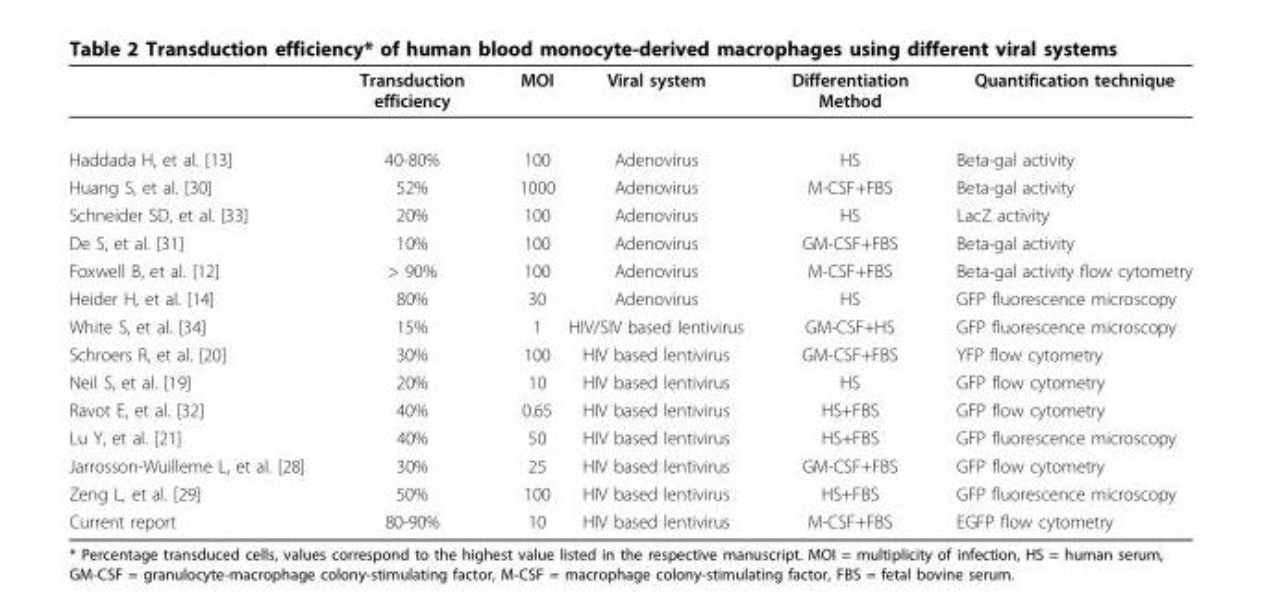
<table><thead><tr><td></td><td>Transduction efficiency</td><td>MOI</td><td>Viral system</td><td>Differentiation Method</td><td>Quantification technique</td></tr></thead><tbody><tr><td>Haddada H, et al. [13]</td><td>40-80%</td><td>100</td><td>Adenovirus</td><td>HS</td><td>Beta-gal activity</td></tr><tr><td>Huang S, et al. [30]</td><td>52%</td><td>1000</td><td>Adenovirus</td><td>M-CSF+FBS</td><td>Beta-gal activity</td></tr><tr><td>Schneider SD, et al. [33]</td><td>20%</td><td>100</td><td>Adenovirus</td><td>HS</td><td>LacZ activity</td></tr><tr><td>De S, et al. [31]</td><td>10%</td><td>100</td><td>Adenovirus</td><td>GM-CSF+FBS</td><td>Beta-gal activity</td></tr><tr><td>Foxwell B, et al. [12]</td><td>&gt; 90%</td><td>100</td><td>Adenovirus</td><td>M-CSF+FBS</td><td>Beta-gal activity flow cytometry</td></tr><tr><td>Heider H, et al. [14]</td><td>80%</td><td>30</td><td>Adenovirus</td><td>HS</td><td>GFP fluorescence microscopy</td></tr><tr><td>White S, et al. [34]</td><td>15%</td><td>1</td><td>HIV/SIV based lentivirus</td><td>GM-CSF+HS</td><td>GFP fluorescence microscopy</td></tr><tr><td>Schroers R, et al. [20]</td><td>30%</td><td>100</td><td>HIV based lentivirus</td><td>GM-CSF+FBS</td><td>YFP flow cytometry</td></tr><tr><td>Neil S, et al. [19]</td><td>20%</td><td>10</td><td>HIV based lentivirus</td><td>HS</td><td>GFP flow cytometry</td></tr><tr><td>Ravot E, et al. [32]</td><td>40%</td><td>0.65</td><td>HIV based lentivirus</td><td>HS+FBS</td><td>GFP flow cytometry</td></tr><tr><td>Lu Y, et al. [21]</td><td>40%</td><td>50</td><td>HIV based lentivirus</td><td>HS+FBS</td><td>GFP fluorescence microscopy</td></tr><tr><td>Jarrosson-Wuilleme L, et al. [28]</td><td>30%</td><td>25</td><td>HIV based lentivirus</td><td>GM-CSF+FBS</td><td>GFP flow cytometry</td></tr><tr><td>Zeng L, et al. [29]</td><td>50%</td><td>100</td><td>HIV based lentivirus</td><td>HS+FBS</td><td>GFP fluorescence microscopy</td></tr><tr><td>Current report</td><td>80-90%</td><td>10</td><td>HIV based lentivirus</td><td>M-CSF+FBS</td><td>EGFP flow cytometry</td></tr></tbody></table>